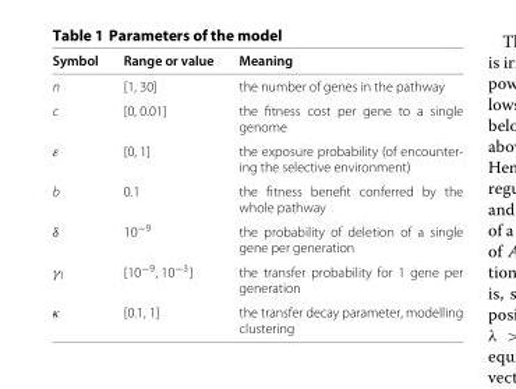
<table><thead><tr><td>Symbol</td><td>Range or value</td><td>Meaning</td></tr></thead><tbody><tr><td>n</td><td>[1, 30]</td><td>the number of genes in the pathway</td></tr><tr><td>c</td><td>[0, 0.01]</td><td>the fitness cost per gene to a single genome</td></tr><tr><td>ε</td><td>[0, 1]</td><td>the exposure probability (of encounter- ing the selective environment)</td></tr><tr><td>b</td><td>0.1</td><td>the fitness benefit conferred by the whole pathway</td></tr><tr><td>δ</td><td>10<sup>−9</sup></td><td>the probability of deletion of a single gene per generation</td></tr><tr><td>γ<sub>1</sub></td><td>[10<sup>−9</sup>, 10<sup>−3</sup>]</td><td>the transfer probability for 1 gene per generation</td></tr><tr><td>κ</td><td>[0.1, 1]</td><td>the transfer decay parameter, modelling clustering</td></tr></tbody></table>